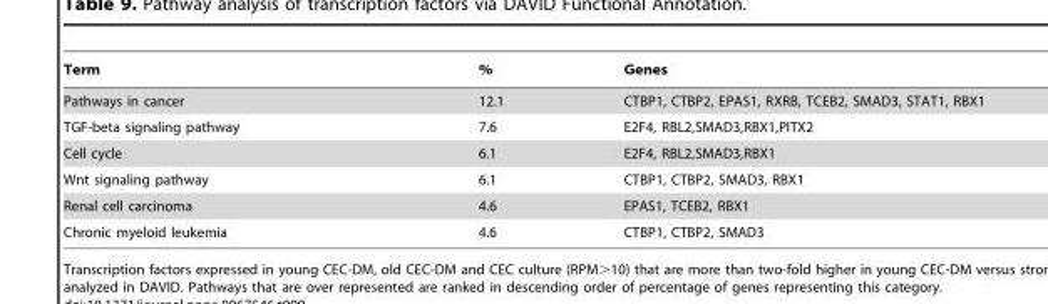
<table><thead><tr><td>Term</td><td>%</td><td>Genes</td></tr></thead><tbody><tr><td>Pathways in cancer</td><td>12.1</td><td>CTBP1, CTBP2, EPAS1, RXRB, TCEB2, SMAD3, STAT1, RBX1</td></tr><tr><td>TGF-beta signaling pathway</td><td>7.6</td><td>E2F4, RBL2,SMAD3,RBX1,PITX2</td></tr><tr><td>Cell cycle</td><td>6.1</td><td>E2F4, RBL2,SMAD3,RBX1</td></tr><tr><td>Wnt signaling pathway</td><td>6.1</td><td>CTBP1, CTBP2, SMAD3, RBX1</td></tr><tr><td>Renal cell carcinoma</td><td>4.6</td><td>EPAS1, TCEB2, RBX1</td></tr><tr><td>Chronic myeloid leukemia</td><td>4.6</td><td>CTBP1, CTBP2, SMAD3</td></tr></tbody></table>